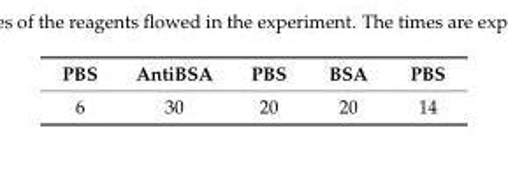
<table><thead><tr><td>PBS</td><td>AntiBSA</td><td>PBS</td><td>BSA</td><td>PBS</td></tr></thead><tbody><tr><td>6</td><td>30</td><td>20</td><td>20</td><td>14</td></tr></tbody></table>